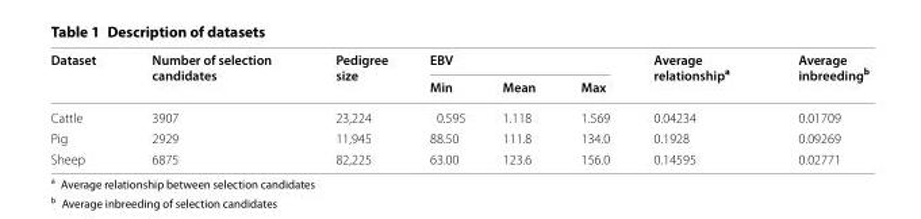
<table><thead><tr><td rowspan="2">Dataset</td><td rowspan="2">Number of selection candidates</td><td rowspan="2">Pedigree size</td><td colspan="3">EBV</td><td rowspan="2">Average relationship<sup>a</sup></td><td rowspan="2">Average inbreeding<sup>b</sup></td></tr><tr><td>Min</td><td>Mean</td><td>Max</td></tr></thead><tbody><tr><td>Cattle</td><td>3907</td><td>23,224</td><td>0.595</td><td>1.118</td><td>1.569</td><td>0.04234</td><td>0.01709</td></tr><tr><td>Pig</td><td>2929</td><td>11,945</td><td>88.50</td><td>111.8</td><td>134.0</td><td>0.1928</td><td>0.09269</td></tr><tr><td>Sheep</td><td>6875</td><td>82,225</td><td>63.00</td><td>123.6</td><td>156.0</td><td>0.14595</td><td>0.02771</td></tr></tbody></table>